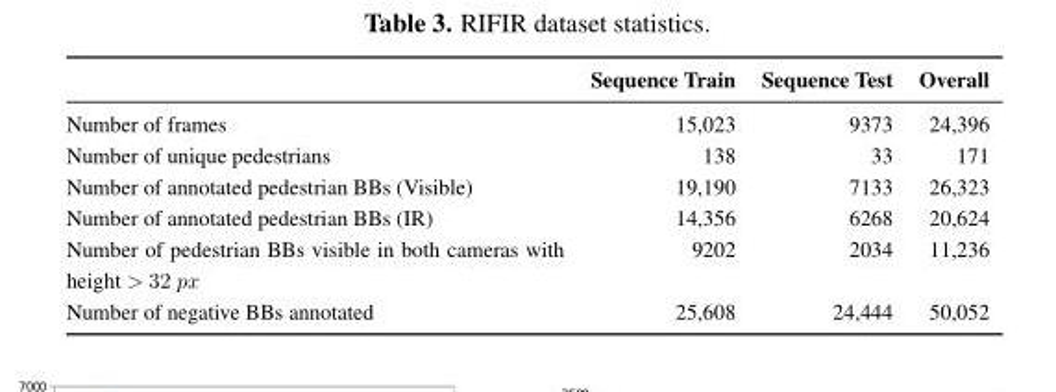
<table><thead><tr><td></td><td>Sequence Train</td><td>Sequence Test</td><td>Overall</td></tr></thead><tbody><tr><td>Number of frames</td><td>15,023</td><td>9373</td><td>24,396</td></tr><tr><td>Number of unique pedestrians</td><td>138</td><td>33</td><td>171</td></tr><tr><td>Number of annotated pedestrian BBs (Visible)</td><td>19,190</td><td>7133</td><td>26,323</td></tr><tr><td>Number of annotated pedestrian BBs (IR)</td><td>14,356</td><td>6268</td><td>20,624</td></tr><tr><td>Number of pedestrian BBs visible in both cameras with height &gt; 32 px</td><td>9202</td><td>2034</td><td>11,236</td></tr><tr><td>Number of negative BBs annotated</td><td>25,608</td><td>24,444</td><td>50,052</td></tr></tbody></table>